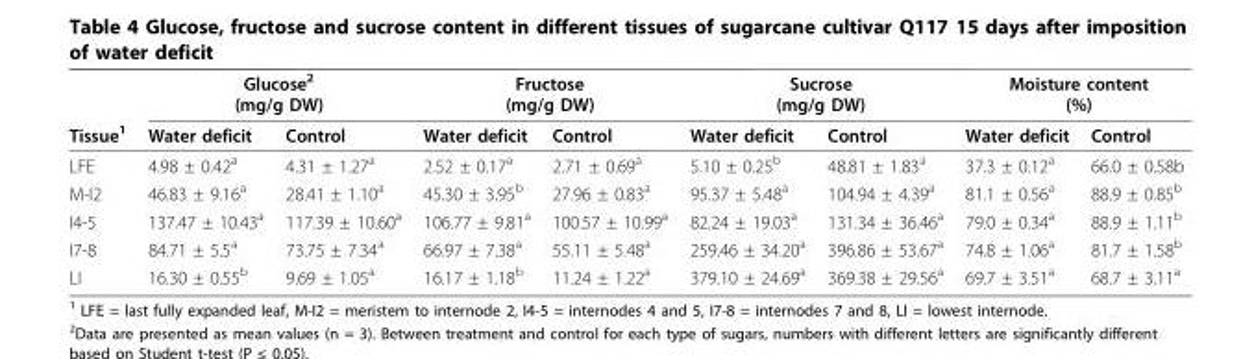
<table><thead><tr><td rowspan="2">Tissue<sup>1</sup></td><td colspan="2">Glucose<sup>2</sup> (mg/g DW)</td><td colspan="2">Fructose (mg/g DW)</td><td colspan="2">Sucrose (mg/g DW)</td><td colspan="2">Moisture content (%)</td></tr><tr><td>Water deficit</td><td>Control</td><td>Water deficit</td><td>Control</td><td>Water deficit</td><td>Control</td><td>Water deficit</td><td>Control</td></tr></thead><tbody><tr><td>LFE</td><td>4.98 ± 0.42<sup>a</sup></td><td>4.31 ± 1.27<sup>a</sup></td><td>2.52 ± 0.17<sup>a</sup></td><td>2.71 ± 0.69<sup>a</sup></td><td>5.10 ± 0.25<sup>b</sup></td><td>48.81 ± 1.83<sup>a</sup></td><td>37.3 ± 0.12<sup>a</sup></td><td>66.0 ± 0.58b</td></tr><tr><td>M-I2</td><td>46.83 ± 9.16<sup>a</sup></td><td>28.41 ± 1.10<sup>a</sup></td><td>45.30 ± 3.95<sup>b</sup></td><td>27.96 ± 0.83<sup>a</sup></td><td>95.37 ± 5.48<sup>a</sup></td><td>104.94 ± 4.39<sup>a</sup></td><td>81.1 ± 0.56<sup>a</sup></td><td>88.9 ± 0.85<sup>b</sup></td></tr><tr><td>I4-5</td><td>137.47 ± 10.43<sup>a</sup></td><td>117.39 ± 10.60<sup>a</sup></td><td>106.77 ± 9.81<sup>a</sup></td><td>100.57 ± 10.99<sup>a</sup></td><td>82.24 ± 19.03<sup>a</sup></td><td>131.34 ± 36.46<sup>a</sup></td><td>79.0 ± 0.34<sup>a</sup></td><td>88.9 ± 1.11<sup>b</sup></td></tr><tr><td>I7-8</td><td>84.71 ± 5.5<sup>a</sup></td><td>73.75 ± 7.34<sup>a</sup></td><td>66.97 ± 7.38<sup>a</sup></td><td>55.11 ± 5.48<sup>a</sup></td><td>259.46 ± 34.20<sup>a</sup></td><td>396.86 ± 53.67<sup>a</sup></td><td>74.8 ± 1.06<sup>a</sup></td><td>81.7 ± 1.58<sup>b</sup></td></tr><tr><td>LI</td><td>16.30 ± 0.55<sup>b</sup></td><td>9.69 ± 1.05<sup>a</sup></td><td>16.17 ± 1.18<sup>b</sup></td><td>11.24 ± 1.22<sup>a</sup></td><td>379.10 ± 24.69<sup>a</sup></td><td>369.38 ± 29.56<sup>a</sup></td><td>69.7 ± 3.51<sup>a</sup></td><td>68.7 ± 3.11<sup>a</sup></td></tr></tbody></table>